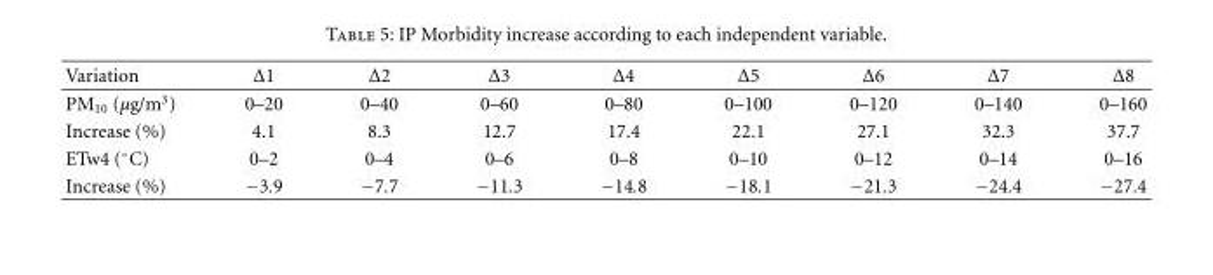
<table><thead><tr><td>Variation</td><td>Δ1</td><td>Δ2</td><td>Δ3</td><td>Δ4</td><td>Δ5</td><td>Δ6</td><td>Δ7</td><td>Δ8</td></tr></thead><tbody><tr><td>PM<sub>10</sub> (μg/m<sup>3</sup>)</td><td>0–20</td><td>0–40</td><td>0–60</td><td>0–80</td><td>0–100</td><td>0–120</td><td>0–140</td><td>0–160</td></tr><tr><td>Increase (%)</td><td>4.1</td><td>8.3</td><td>12.7</td><td>17.4</td><td>22.1</td><td>27.1</td><td>32.3</td><td>37.7</td></tr><tr><td>ETw4 (◦C)</td><td>0–2</td><td>0–4</td><td>0–6</td><td>0–8</td><td>0–10</td><td>0–12</td><td>0–14</td><td>0–16</td></tr><tr><td>Increase (%)</td><td>−3.9</td><td>−7.7</td><td>−11.3</td><td>−14.8</td><td>−18.1</td><td>−21.3</td><td>−24.4</td><td>−27.4</td></tr></tbody></table>